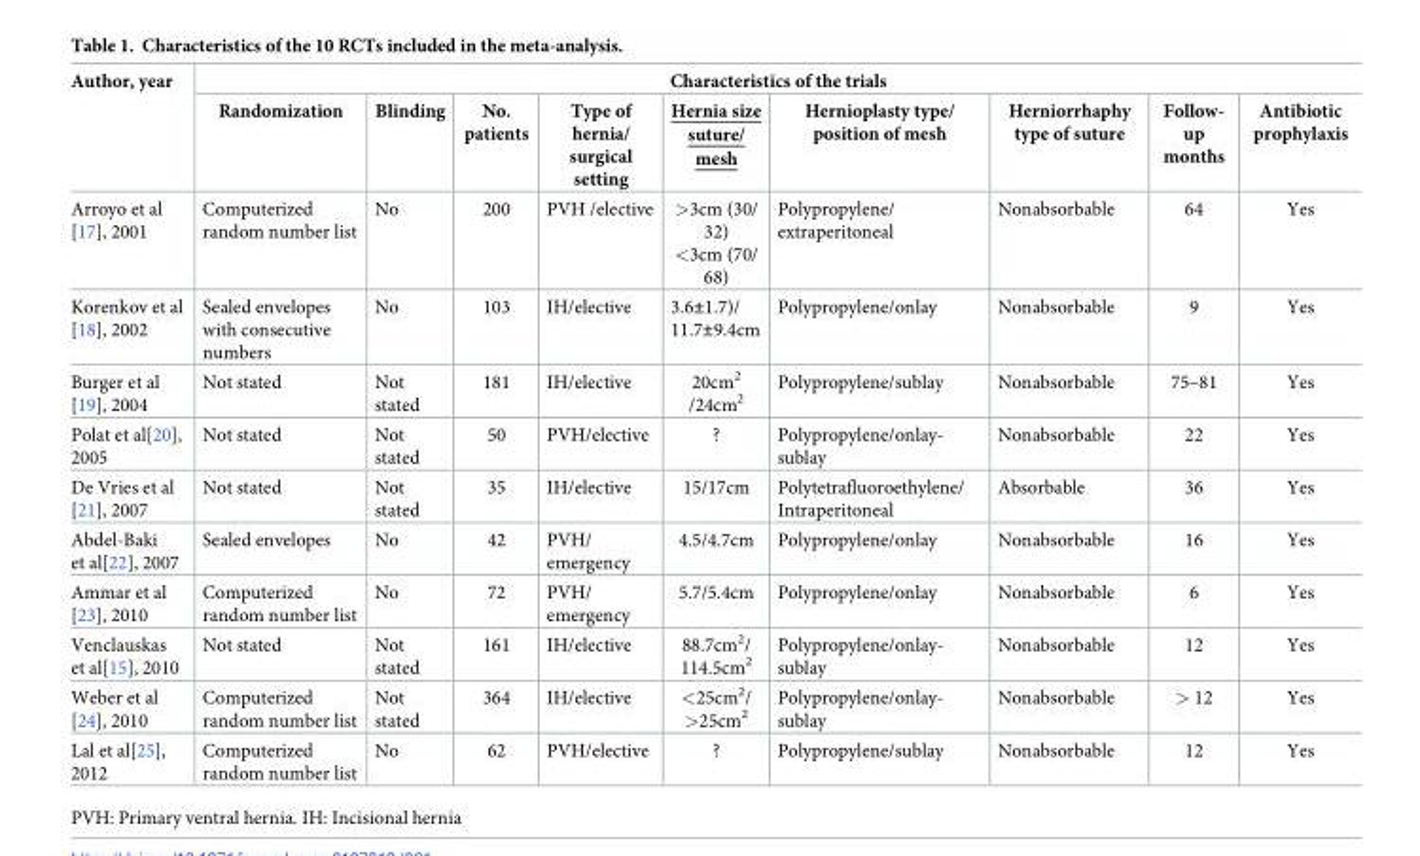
<table><thead><tr><td rowspan="2">Author, year</td><td colspan="9">Characteristics of the trials</td></tr><tr><td>Randomization</td><td>Blinding</td><td>No. patients</td><td>Type of hernia/ surgical setting</td><td>Hernia size suture/ mesh</td><td>Hernioplasty type/ position of mesh</td><td>Herniorrhaphy type of suture</td><td>Follow- up months</td><td>Antibiotic prophylaxis</td></tr></thead><tbody><tr><td>Arroyo et al [17], 2001</td><td>Computerized random number list</td><td>No</td><td>200</td><td>PVH /elective</td><td>&gt;3cm (30/ 32) &lt;3cm (70/ 68)</td><td>Polypropylene/ extraperitoneal</td><td>Nonabsorbable</td><td>64</td><td>Yes</td></tr><tr><td>Korenkov et al [18], 2002</td><td>Sealed envelopes with consecutive numbers</td><td>No</td><td>103</td><td>IH/elective</td><td>3.6±1.7)/ 11.7±9.4cm</td><td>Polypropylene/onlay</td><td>Nonabsorbable</td><td>9</td><td>Yes</td></tr><tr><td>Burger et al [19], 2004</td><td>Not stated</td><td>Not stated</td><td>181</td><td>IH/elective</td><td>20cm<sup>2</sup> /24cm<sup>2</sup></td><td>Polypropylene/sublay</td><td>Nonabsorbable</td><td>75–81</td><td>Yes</td></tr><tr><td>Polat et al[20], 2005</td><td>Not stated</td><td>Not stated</td><td>50</td><td>PVH/elective</td><td>?</td><td>Polypropylene/onlay- sublay</td><td>Nonabsorbable</td><td>22</td><td>Yes</td></tr><tr><td>De Vries et al [21], 2007</td><td>Not stated</td><td>Not stated</td><td>35</td><td>IH/elective</td><td>15/17cm</td><td>Polytetrafluoroethylene/ Intraperitoneal</td><td>Absorbable</td><td>36</td><td>Yes</td></tr><tr><td>Abdel-Baki et al[22], 2007</td><td>Sealed envelopes</td><td>No</td><td>42</td><td>PVH/ emergency</td><td>4.5/4.7cm</td><td>Polypropylene/onlay</td><td>Nonabsorbable</td><td>16</td><td>Yes</td></tr><tr><td>Ammar et al [23], 2010</td><td>Computerized random number list</td><td>No</td><td>72</td><td>PVH/ emergency</td><td>5.7/5.4cm</td><td>Polypropylene/onlay</td><td>Nonabsorbable</td><td>6</td><td>Yes</td></tr><tr><td>Venclauskas et al[15], 2010</td><td>Not stated</td><td>Not stated</td><td>161</td><td>IH/elective</td><td>88.7cm<sup>2</sup>/ 114.5cm<sup>2</sup></td><td>Polypropylene/onlay- sublay</td><td>Nonabsorbable</td><td>12</td><td>Yes</td></tr><tr><td>Weber et al [24], 2010</td><td>Computerized random number list</td><td>Not stated</td><td>364</td><td>IH/elective</td><td>&lt;25cm<sup>2</sup>/ &gt;25cm<sup>2</sup></td><td>Polypropylene/onlay- sublay</td><td>Nonabsorbable</td><td>&gt; 12</td><td>Yes</td></tr><tr><td>Lal et al[25], 2012</td><td>Computerized random number list</td><td>No</td><td>62</td><td>PVH/elective</td><td>?</td><td>Polypropylene/sublay</td><td>Nonabsorbable</td><td>12</td><td>Yes</td></tr></tbody></table>